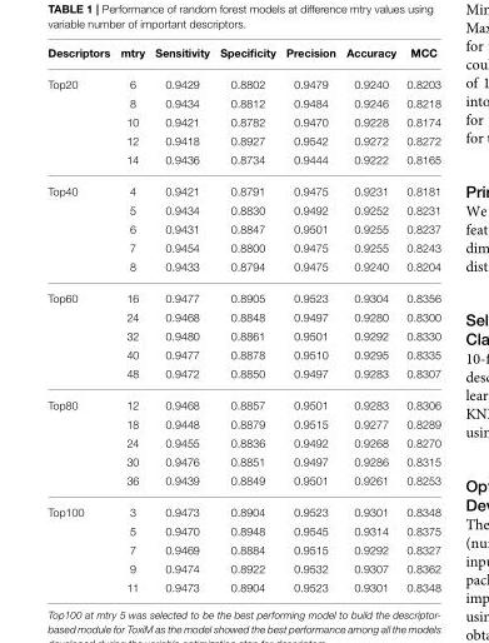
<table><thead><tr><td>Descriptors</td><td>mtry</td><td>Sensitivity</td><td>Specificity</td><td>Precision</td><td>Accuracy</td><td>MCC</td></tr></thead><tbody><tr><td rowspan="5">Top20</td><td>6</td><td>0.9429</td><td>0.8802</td><td>0.9479</td><td>0.9240</td><td>0.8203</td></tr><tr><td>8</td><td>0.9434</td><td>0.8812</td><td>0.9484</td><td>0.9246</td><td>0.8218</td></tr><tr><td>10</td><td>0.9421</td><td>0.8782</td><td>0.9470</td><td>0.9228</td><td>0.8174</td></tr><tr><td>12</td><td>0.9418</td><td>0.8927</td><td>0.9542</td><td>0.9272</td><td>0.8272</td></tr><tr><td>14</td><td>0.9436</td><td>0.8734</td><td>0.9444</td><td>0.9222</td><td>0.8165</td></tr><tr><td rowspan="5">Top40</td><td>4</td><td>0.9421</td><td>0.8791</td><td>0.9475</td><td>0.9231</td><td>0.8181</td></tr><tr><td>5</td><td>0.9434</td><td>0.8830</td><td>0.9492</td><td>0.9252</td><td>0.8231</td></tr><tr><td>6</td><td>0.9431</td><td>0.8847</td><td>0.9501</td><td>0.9255</td><td>0.8237</td></tr><tr><td>7</td><td>0.9454</td><td>0.8800</td><td>0.9475</td><td>0.9255</td><td>0.8243</td></tr><tr><td>8</td><td>0.9433</td><td>0.8794</td><td>0.9475</td><td>0.9240</td><td>0.8204</td></tr><tr><td rowspan="5">Top60</td><td>16</td><td>0.9477</td><td>0.8905</td><td>0.9523</td><td>0.9304</td><td>0.8356</td></tr><tr><td>24</td><td>0.9468</td><td>0.8848</td><td>0.9497</td><td>0.9280</td><td>0.8300</td></tr><tr><td>32</td><td>0.9480</td><td>0.8861</td><td>0.9501</td><td>0.9292</td><td>0.8330</td></tr><tr><td>40</td><td>0.9477</td><td>0.8878</td><td>0.9510</td><td>0.9295</td><td>0.8335</td></tr><tr><td>48</td><td>0.9472</td><td>0.8850</td><td>0.9497</td><td>0.9283</td><td>0.8307</td></tr><tr><td rowspan="5">Top80</td><td>12</td><td>0.9468</td><td>0.8857</td><td>0.9501</td><td>0.9283</td><td>0.8306</td></tr><tr><td>18</td><td>0.9448</td><td>0.8879</td><td>0.9515</td><td>0.9277</td><td>0.8289</td></tr><tr><td>24</td><td>0.9455</td><td>0.8836</td><td>0.9492</td><td>0.9268</td><td>0.8270</td></tr><tr><td>30</td><td>0.9476</td><td>0.8851</td><td>0.9497</td><td>0.9286</td><td>0.8315</td></tr><tr><td>36</td><td>0.9439</td><td>0.8849</td><td>0.9501</td><td>0.9261</td><td>0.8253</td></tr><tr><td rowspan="5">Top100</td><td>3</td><td>0.9473</td><td>0.8904</td><td>0.9523</td><td>0.9301</td><td>0.8348</td></tr><tr><td>5</td><td>0.9470</td><td>0.8948</td><td>0.9545</td><td>0.9314</td><td>0.8375</td></tr><tr><td>7</td><td>0.9469</td><td>0.8884</td><td>0.9515</td><td>0.9292</td><td>0.8327</td></tr><tr><td>9</td><td>0.9474</td><td>0.8922</td><td>0.9532</td><td>0.9307</td><td>0.8362</td></tr><tr><td>11</td><td>0.9473</td><td>0.8904</td><td>0.9523</td><td>0.9301</td><td>0.8348</td></tr></tbody></table>